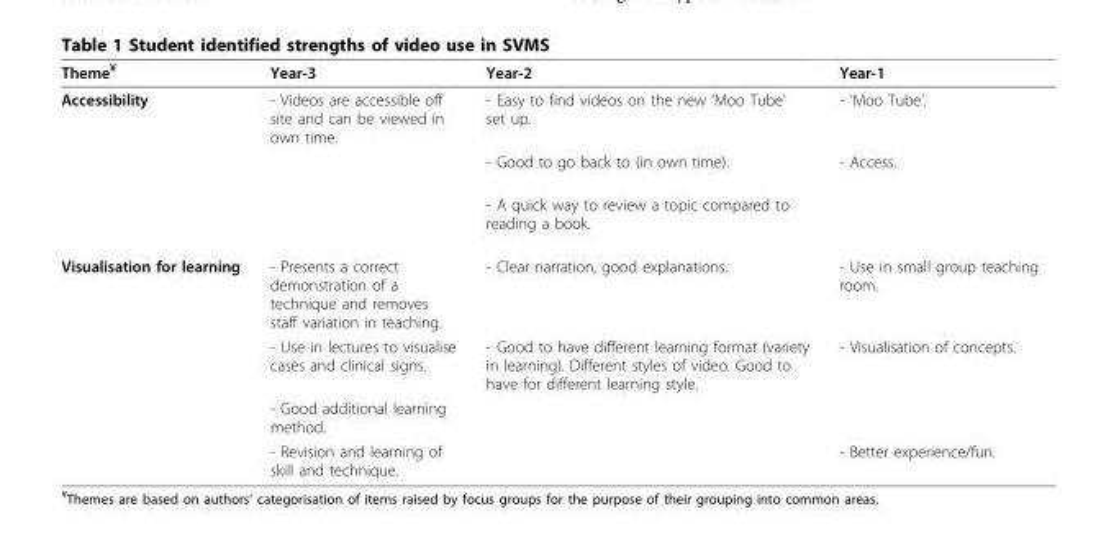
<table><thead><tr><td>Theme<sup>¥</sup></td><td>Year-3</td><td>Year-2</td><td>Year-1</td></tr></thead><tbody><tr><td rowspan="3">Accessibility</td><td>- Videos are accessible off site and can be viewed in own time.</td><td>- Easy to find videos on the new ‘Moo Tube’ set up.</td><td>- ‘Moo Tube’.</td></tr><tr><td></td><td>- Good to go back to (in own time).</td><td>- Access.</td></tr><tr><td></td><td>- A quick way to review a topic compared to reading a book.</td><td></td></tr><tr><td rowspan="4">Visualisation for learning</td><td>- Presents a correct demonstration of a technique and removes staff variation in teaching.</td><td>- Clear narration, good explanations.</td><td>- Use in small group teaching room.</td></tr><tr><td>- Use in lectures to visualise cases and clinical signs.</td><td>- Good to have different learning format (variety in learning). Different styles of video. Good to have for different learning style.</td><td>- Visualisation of concepts.</td></tr><tr><td>- Good additional learning method.</td><td></td><td></td></tr><tr><td>- Revision and learning of skill and technique.</td><td></td><td>- Better experience/fun.</td></tr></tbody></table>